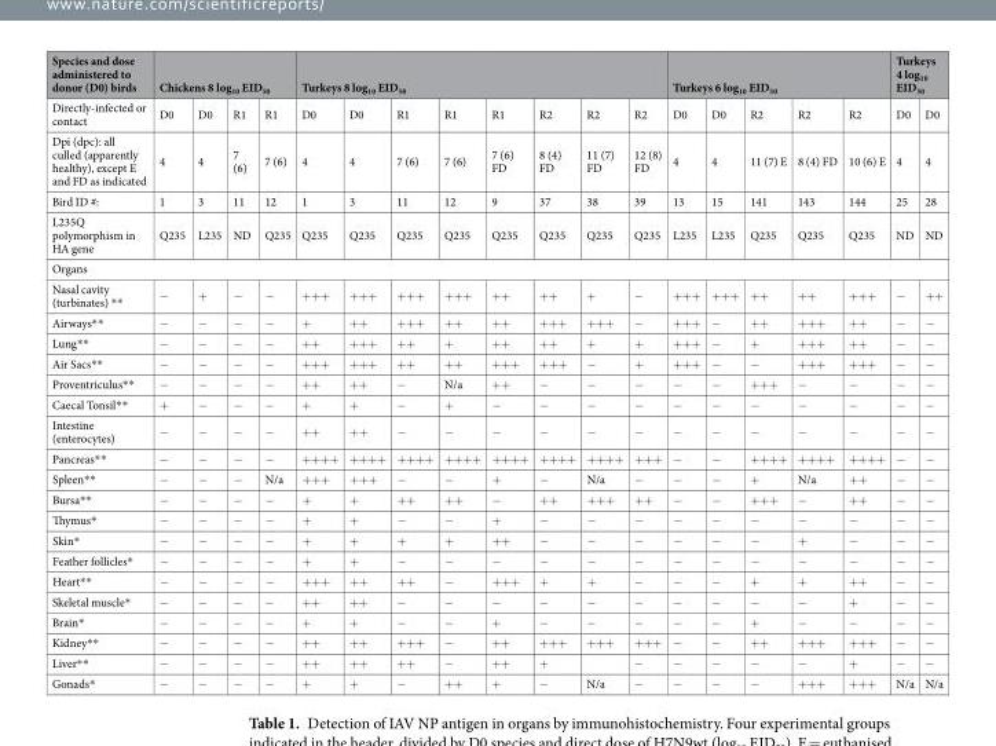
<table><thead><tr><td rowspan="2">Species and dose administered to donor (D0) birds Directly-infected or contact</td><td colspan="4">Chickens 8 log<sub>10</sub> EID<sub>50</sub></td><td colspan="8">Turkeys 8 log<sub>10</sub> EID<sub>50</sub></td><td colspan="5">Turkeys 6 log<sub>10</sub> EID<sub>50</sub></td><td colspan="2">Turkeys 4 log<sub>10</sub> EID<sub>50</sub></td></tr><tr><td>D0</td><td>D0</td><td>R1</td><td>R1</td><td>D0</td><td>D0</td><td>R1</td><td>R1</td><td>R1</td><td>R2</td><td>R2</td><td>R2</td><td>D0</td><td>D0</td><td>R2</td><td>R2</td><td>R2</td><td>D0</td><td>D0</td></tr></thead><tbody><tr><td>Dpi (dpc): all culled (apparently healthy), except E and FD as indicated</td><td>4</td><td>4</td><td>7 (6)</td><td>7 (6)</td><td>4</td><td>4</td><td>7 (6)</td><td>7 (6)</td><td>7 (6) FD</td><td>8 (4) FD</td><td>11 (7) FD</td><td>12 (8) FD</td><td>4</td><td>4</td><td>11 (7) E</td><td>8 (4) FD</td><td>10 (6) E</td><td>4</td><td>4</td></tr><tr><td>Bird ID #:</td><td>1</td><td>3</td><td>11</td><td>12</td><td>1</td><td>3</td><td>11</td><td>12</td><td>9</td><td>37</td><td>38</td><td>39</td><td>13</td><td>15</td><td>141</td><td>143</td><td>144</td><td>25</td><td>28</td></tr><tr><td>L235Q polymorphism in HA gene</td><td>Q235</td><td>L235</td><td>ND</td><td>Q235</td><td>Q235</td><td>Q235</td><td>Q235</td><td>Q235</td><td>Q235</td><td>Q235</td><td>Q235</td><td>Q235</td><td>L235</td><td>L235</td><td>Q235</td><td>Q235</td><td>Q235</td><td>ND</td><td>ND</td></tr><tr><td colspan="20">Organs</td></tr><tr><td>Nasal cavity (turbinates) **</td><td>−</td><td>+</td><td>−</td><td>−</td><td>+++</td><td>+++</td><td>+++</td><td>+++</td><td>++</td><td>++</td><td>+</td><td>−</td><td>+++</td><td>+++</td><td>++</td><td>++</td><td>+++</td><td>−</td><td>++</td></tr><tr><td>Airways**</td><td>−</td><td>−</td><td>−</td><td>−</td><td>+</td><td>++</td><td>+++</td><td>++</td><td>++</td><td>+++</td><td>+++</td><td>−</td><td>+++</td><td>−</td><td>++</td><td>+++</td><td>++</td><td>−</td><td>−</td></tr><tr><td>Lung**</td><td>−</td><td>−</td><td>−</td><td>−</td><td>++</td><td>+++</td><td>++</td><td>+</td><td>++</td><td>++</td><td>+</td><td>+</td><td>+++</td><td>−</td><td>+</td><td>+++</td><td>++</td><td>−</td><td>−</td></tr><tr><td>Air Sacs**</td><td>−</td><td>−</td><td>−</td><td>−</td><td>+++</td><td>+++</td><td>++</td><td>++</td><td>+++</td><td>+++</td><td>−</td><td>+</td><td>+++</td><td>−</td><td>−</td><td>+++</td><td>+++</td><td>−</td><td>−</td></tr><tr><td>Proventriculus**</td><td>−</td><td>−</td><td>−</td><td>−</td><td>++</td><td>++</td><td>−</td><td>N/a</td><td>++</td><td>−</td><td>−</td><td>−</td><td>−</td><td>−</td><td>+++</td><td>−</td><td>−</td><td>−</td><td>−</td></tr><tr><td>Caecal Tonsil**</td><td>+</td><td>−</td><td>−</td><td>−</td><td>+</td><td>+</td><td>−</td><td>+</td><td>−</td><td>−</td><td>−</td><td>−</td><td>−</td><td>−</td><td>−</td><td>−</td><td>−</td><td>−</td><td>−</td></tr><tr><td>Intestine (enterocytes)</td><td>−</td><td>−</td><td>−</td><td>−</td><td>++</td><td>++</td><td>−</td><td>−</td><td>−</td><td>−</td><td>−</td><td>−</td><td>−</td><td>−</td><td>−</td><td>−</td><td>−</td><td>−</td><td>−</td></tr><tr><td>Pancreas**</td><td>−</td><td>−</td><td>−</td><td>−</td><td>++++</td><td>++++</td><td>++++</td><td>++++</td><td>++++</td><td>++++</td><td>++++</td><td>+++</td><td>−</td><td>−</td><td>++++</td><td>++++</td><td>++++</td><td>−</td><td>−</td></tr><tr><td>Spleen**</td><td>−</td><td>−</td><td>−</td><td>N/a</td><td>+++</td><td>+++</td><td>−</td><td>−</td><td>+</td><td>−</td><td>N/a</td><td>−</td><td>−</td><td>−</td><td>+</td><td>N/a</td><td>++</td><td>−</td><td>−</td></tr><tr><td>Bursa**</td><td>−</td><td>−</td><td>−</td><td>−</td><td>+</td><td>+</td><td>++</td><td>++</td><td>−</td><td>++</td><td>+++</td><td>++</td><td>−</td><td>−</td><td>+++</td><td>−</td><td>++</td><td>−</td><td>−</td></tr><tr><td>Thymus*</td><td>−</td><td>−</td><td>−</td><td>−</td><td>+</td><td>+</td><td>−</td><td>−</td><td>+</td><td>−</td><td>−</td><td>−</td><td>−</td><td>−</td><td>−</td><td>−</td><td>−</td><td>−</td><td>−</td></tr><tr><td>Skin*</td><td>−</td><td>−</td><td>−</td><td>−</td><td>+</td><td>+</td><td>+</td><td>+</td><td>++</td><td>−</td><td>−</td><td>−</td><td>−</td><td>−</td><td>−</td><td>+</td><td>−</td><td>−</td><td>−</td></tr><tr><td>Feather follicles*</td><td>−</td><td>−</td><td>−</td><td>−</td><td>+</td><td>+</td><td>−</td><td>−</td><td>−</td><td>−</td><td>−</td><td>−</td><td>−</td><td>−</td><td>−</td><td>−</td><td>−</td><td>−</td><td>−</td></tr><tr><td>Heart**</td><td>−</td><td>−</td><td>−</td><td>−</td><td>+++</td><td>++</td><td>++</td><td>−</td><td>+++</td><td>+</td><td>+</td><td>−</td><td>−</td><td>−</td><td>+</td><td>+</td><td>++</td><td>−</td><td>−</td></tr><tr><td>Skeletal muscle*</td><td>−</td><td>−</td><td>−</td><td>−</td><td>++</td><td>++</td><td>−</td><td>−</td><td>−</td><td>−</td><td>−</td><td>−</td><td>−</td><td>−</td><td>−</td><td>−</td><td>+</td><td>−</td><td>−</td></tr><tr><td>Brain*</td><td>−</td><td>−</td><td>−</td><td>−</td><td>+</td><td>+</td><td>−</td><td>−</td><td>+</td><td>−</td><td>−</td><td>−</td><td>−</td><td>−</td><td>+</td><td>−</td><td>−</td><td>−</td><td>−</td></tr><tr><td>Kidney**</td><td>−</td><td>−</td><td>−</td><td>−</td><td>++</td><td>++</td><td>+++</td><td>−</td><td>++</td><td>+++</td><td>+++</td><td>+++</td><td>−</td><td>−</td><td>++</td><td>+++</td><td>+++</td><td>−</td><td>−</td></tr><tr><td>Liver**</td><td>−</td><td>−</td><td>−</td><td>−</td><td>++</td><td>++</td><td>++</td><td>−</td><td>++</td><td>+</td><td></td><td>−</td><td>−</td><td>−</td><td>−</td><td>−</td><td>+</td><td>−</td><td>−</td></tr><tr><td>Gonads*</td><td>−</td><td>−</td><td>−</td><td>−</td><td>+</td><td>+</td><td>−</td><td>++</td><td>+</td><td>−</td><td>N/a</td><td>−</td><td>−</td><td>−</td><td>−</td><td>+++</td><td>+++</td><td>N/a</td><td>N/a</td></tr></tbody></table>